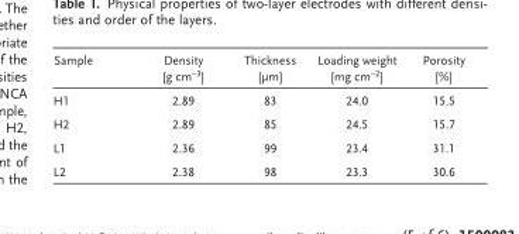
<table><thead><tr><td>Sample</td><td>Density [g cm <sup>−3</sup> ]</td><td>Thickness [µm]</td><td>Loading weight [mg cm <sup>−2</sup> ]</td><td>Porosity [%]</td></tr></thead><tbody><tr><td>H1</td><td>2.89</td><td>83</td><td>24.0</td><td>15.5</td></tr><tr><td>H2</td><td>2.89</td><td>85</td><td>24.5</td><td>15.7</td></tr><tr><td>L1</td><td>2.36</td><td>99</td><td>23.4</td><td>31.1</td></tr><tr><td>L2</td><td>2.38</td><td>98</td><td>23.3</td><td>30.6</td></tr></tbody></table>